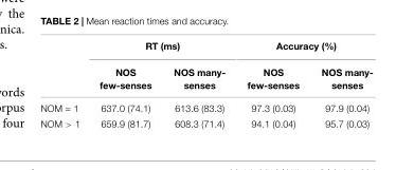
<table><thead><tr><td rowspan="2"></td><td colspan="2">RT (ms)</td><td colspan="2">Accuracy (%)</td></tr><tr><td>NOS few-senses</td><td>NOS many- senses</td><td>NOS few-senses</td><td>NOS many- senses</td></tr></thead><tbody><tr><td>NOM = 1</td><td>637.0 (74.1)</td><td>613.6 (83.3)</td><td>97.3 (0.03)</td><td>97.9 (0.04)</td></tr><tr><td>NOM &gt; 1</td><td>659.9 (81.7)</td><td>608.3 (71.4)</td><td>94.1 (0.04)</td><td>95.7 (0.03)</td></tr></tbody></table>